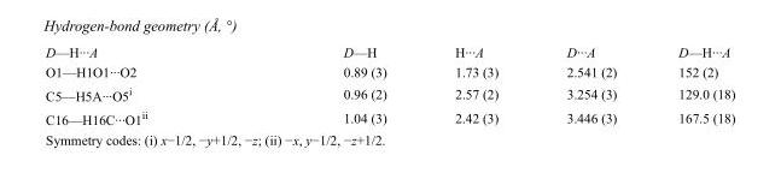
<table><tbody><tr><td>D—H···A</td><td>D—H</td><td>H···A</td><td>D···A</td><td>D—H···A</td></tr><tr><td>O1—H1O1···O2</td><td>0.89 (3)</td><td>1.73 (3)</td><td>2.541 (2)</td><td>152 (2)</td></tr><tr><td>C5—H5A···O5<sup>i</sup></td><td>0.96 (2)</td><td>2.57 (2)</td><td>3.254 (3)</td><td>129.0 (18)</td></tr><tr><td>C16—H16C···O1<sup>ii</sup></td><td>1.04 (3)</td><td>2.42 (3)</td><td>3.446 (3)</td><td>167.5 (18)</td></tr></tbody></table>